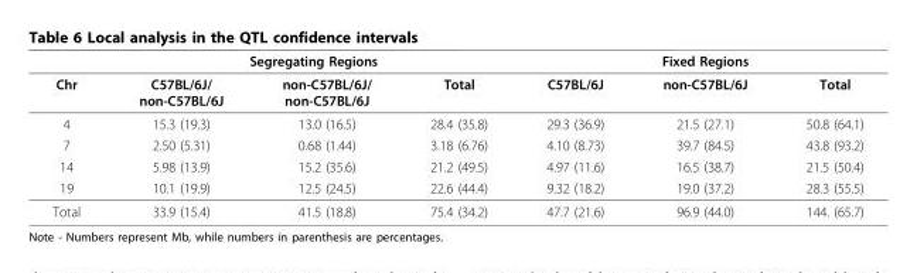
<table><thead><tr><td rowspan="2">Chr</td><td colspan="3">Segregating Regions</td><td colspan="3">Fixed Regions</td></tr><tr><td>C57BL/6J/ non-C57BL/6J</td><td>non-C57BL/6J/ non-C57BL/6J</td><td>Total</td><td>C57BL/6J</td><td>non-C57BL/6J</td><td>Total</td></tr></thead><tbody><tr><td>4</td><td>15.3 (19.3)</td><td>13.0 (16.5)</td><td>28.4 (35.8)</td><td>29.3 (36.9)</td><td>21.5 (27.1)</td><td>50.8 (64.1)</td></tr><tr><td>7</td><td>2.50 (5.31)</td><td>0.68 (1.44)</td><td>3.18 (6.76)</td><td>4.10 (8.73)</td><td>39.7 (84.5)</td><td>43.8 (93.2)</td></tr><tr><td>14</td><td>5.98 (13.9)</td><td>15.2 (35.6)</td><td>21.2 (49.5)</td><td>4.97 (11.6)</td><td>16.5 (38.7)</td><td>21.5 (50.4)</td></tr><tr><td>19</td><td>10.1 (19.9)</td><td>12.5 (24.5)</td><td>22.6 (44.4)</td><td>9.32 (18.2)</td><td>19.0 (37.2)</td><td>28.3 (55.5)</td></tr><tr><td>Total</td><td>33.9 (15.4)</td><td>41.5 (18.8)</td><td>75.4 (34.2)</td><td>47.7 (21.6)</td><td>96.9 (44.0)</td><td>144. (65.7)</td></tr></tbody></table>